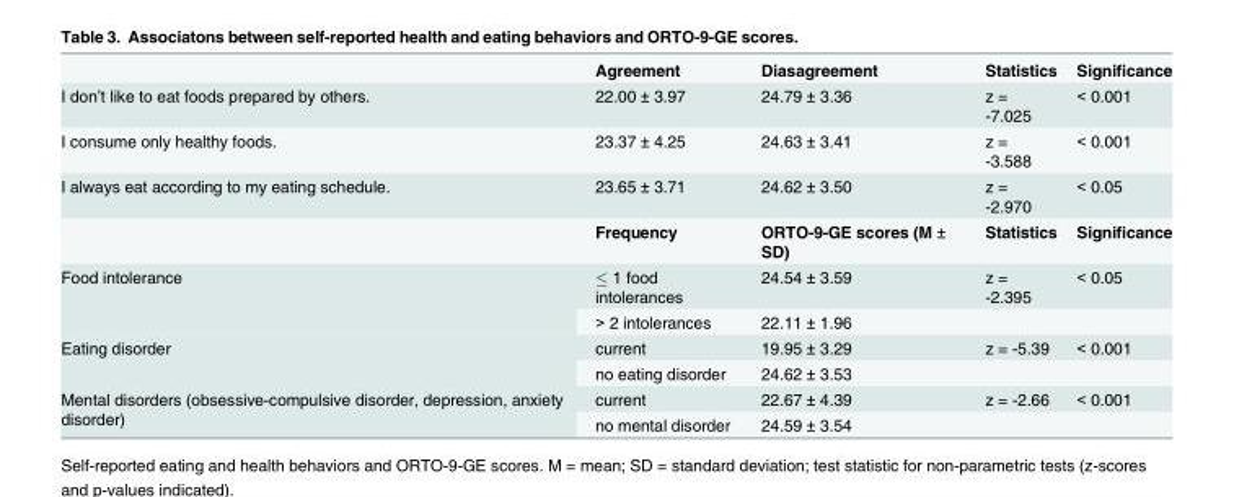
<table><thead><tr><td></td><td>Agreement</td><td>Diasagreement</td><td>Statistics</td><td>Significance</td></tr></thead><tbody><tr><td>I don’t like to eat foods prepared by others.</td><td>22.00 ± 3.97</td><td>24.79 ± 3.36</td><td>z = -7.025</td><td>&lt; 0.001</td></tr><tr><td>I consume only healthy foods.</td><td>23.37 ± 4.25</td><td>24.63 ± 3.41</td><td>z = -3.588</td><td>&lt; 0.001</td></tr><tr><td rowspan="2">I always eat according to my eating schedule.</td><td>23.65 ± 3.71</td><td>24.62 ± 3.50</td><td>z = -2.970</td><td>&lt; 0.05</td></tr><tr><td>Frequency</td><td>ORTO-9-GE scores (M ± SD)</td><td>Statistics</td><td>Significance</td></tr><tr><td rowspan="2">Food intolerance</td><td>≤ 1 food intolerances</td><td>24.54 ± 3.59</td><td>z = -2.395</td><td>&lt; 0.05</td></tr><tr><td>&gt; 2 intolerances</td><td>22.11 ± 1.96</td><td></td><td></td></tr><tr><td rowspan="2">Eating disorder</td><td>current</td><td>19.95 ± 3.29</td><td>z = -5.39</td><td>&lt; 0.001</td></tr><tr><td>no eating disorder</td><td>24.62 ± 3.53</td><td></td><td></td></tr><tr><td rowspan="2">Mental disorders (obsessive-compulsive disorder, depression, anxiety disorder)</td><td>current</td><td>22.67 ± 4.39</td><td>z = -2.66</td><td>&lt; 0.001</td></tr><tr><td>no mental disorder</td><td>24.59 ± 3.54</td><td></td><td></td></tr></tbody></table>